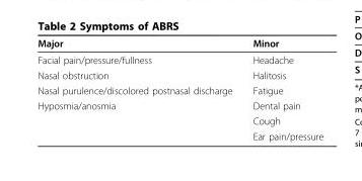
<table><thead><tr><td>Major</td><td>Minor</td></tr></thead><tbody><tr><td>Facial pain/pressure/fullness</td><td>Headache</td></tr><tr><td>Nasal obstruction</td><td>Halitosis</td></tr><tr><td>Nasal purulence/discolored postnasal discharge</td><td>Fatigue</td></tr><tr><td rowspan="3">Hyposmia/anosmia</td><td>Dental pain</td></tr><tr><td>Cough</td></tr><tr><td>Ear pain/pressure</td></tr></tbody></table>